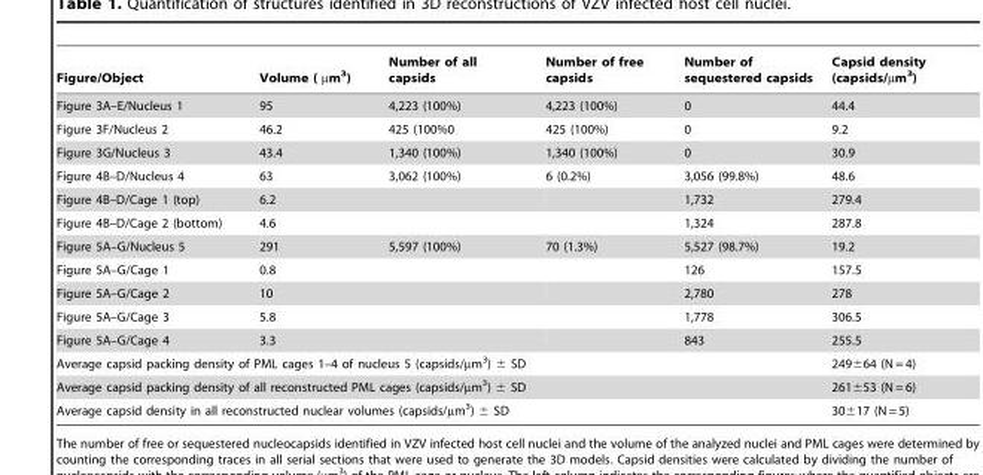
<table><thead><tr><td>Figure/Object</td><td>Volume ( µm<sup>3</sup>)</td><td>Number of all capsids</td><td>Number of free capsids</td><td>Number of sequestered capsids</td><td>Capsid density (capsids/µm<sup>3</sup>)</td></tr></thead><tbody><tr><td>Figure 3A–E/Nucleus 1</td><td>95</td><td>4,223 (100%)</td><td>4,223 (100%)</td><td>0</td><td>44.4</td></tr><tr><td>Figure 3F/Nucleus 2</td><td>46.2</td><td>425 (100%0</td><td>425 (100%)</td><td>0</td><td>9.2</td></tr><tr><td>Figure 3G/Nucleus 3</td><td>43.4</td><td>1,340 (100%)</td><td>1,340 (100%)</td><td>0</td><td>30.9</td></tr><tr><td>Figure 4B–D/Nucleus 4</td><td>63</td><td>3,062 (100%)</td><td>6 (0.2%)</td><td>3,056 (99.8%)</td><td>48.6</td></tr><tr><td>Figure 4B–D/Cage 1 (top)</td><td>6.2</td><td></td><td></td><td>1,732</td><td>279.4</td></tr><tr><td>Figure 4B–D/Cage 2 (bottom)</td><td>4.6</td><td></td><td></td><td>1,324</td><td>287.8</td></tr><tr><td>Figure 5A–G/Nucleus 5</td><td>291</td><td>5,597 (100%)</td><td>70 (1.3%)</td><td>5,527 (98.7%)</td><td>19.2</td></tr><tr><td>Figure 5A–G/Cage 1</td><td>0.8</td><td></td><td></td><td>126</td><td>157.5</td></tr><tr><td>Figure 5A–G/Cage 2</td><td>10</td><td></td><td></td><td>2,780</td><td>278</td></tr><tr><td>Figure 5A–G/Cage 3</td><td>5.8</td><td></td><td></td><td>1,778</td><td>306.5</td></tr><tr><td>Figure 5A–G/Cage 4</td><td>3.3</td><td></td><td></td><td>843</td><td>255.5</td></tr><tr><td colspan="5">Average capsid packing density of PML cages 1–4 of nucleus 5 (capsids/µm<sup>3</sup>) ± SD</td><td>249±64 (N = 4)</td></tr><tr><td colspan="5">Average capsid packing density of all reconstructed PML cages (capsids/µm<sup>3</sup>) ± SD</td><td>261±53 (N = 6)</td></tr><tr><td colspan="5">Average capsid density in all reconstructed nuclear volumes (capsids/µm<sup>3</sup>) ± SD</td><td>30±17 (N = 5)</td></tr></tbody></table>